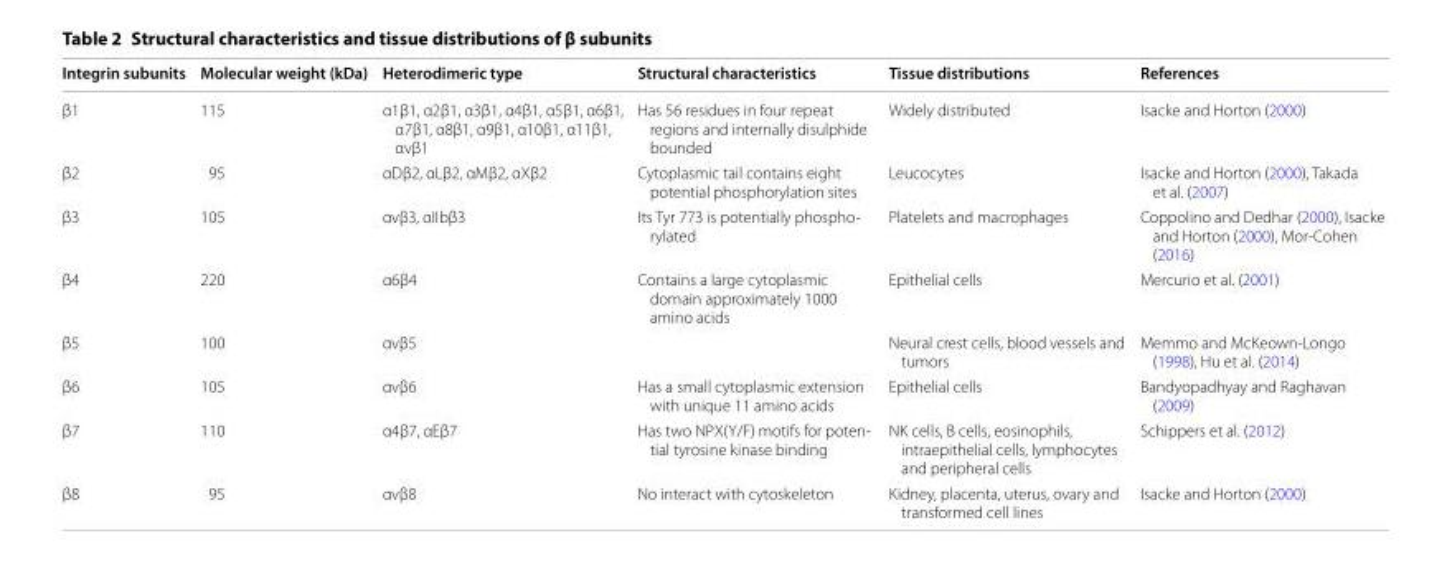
<table><thead><tr><td>Integrin subunits</td><td>Molecular weight (kDa)</td><td>Heterodimeric type</td><td>Structural characteristics</td><td>Tissue distributions</td><td>References</td></tr></thead><tbody><tr><td>β1</td><td>115</td><td>α1β1, α2β1, α3β1, α4β1, α5β1, α6β1, α7β1, α8β1, α9β1, α10β1, α11β1, αvβ1</td><td>Has 56 residues in four repeat regions and internally disulphide bounded</td><td>Widely distributed</td><td>Isacke and Horton (2000)</td></tr><tr><td>β2</td><td>95</td><td>αDβ2, αLβ2, αMβ2, αXβ2</td><td>Cytoplasmic tail contains eight potential phosphorylation sites</td><td>Leucocytes</td><td>Isacke and Horton (2000), Takada et al. (2007)</td></tr><tr><td>β3</td><td>105</td><td>αvβ3, αIIbβ3</td><td>Its Tyr 773 is potentially phospho- rylated</td><td>Platelets and macrophages</td><td>Coppolino and Dedhar (2000), Isacke and Horton (2000), Mor-Cohen (2016)</td></tr><tr><td>β4</td><td>220</td><td>α6β4</td><td>Contains a large cytoplasmic domain approximately 1000 amino acids</td><td>Epithelial cells</td><td>Mercurio et al. (2001)</td></tr><tr><td>β5</td><td>100</td><td>αvβ5</td><td></td><td>Neural crest cells, blood vessels and tumors</td><td>Memmo and McKeown-Longo (1998), Hu et al. (2014)</td></tr><tr><td>β6</td><td>105</td><td>αvβ6</td><td>Has a small cytoplasmic extension with unique 11 amino acids</td><td>Epithelial cells</td><td>Bandyopadhyay and Raghavan (2009)</td></tr><tr><td>β7</td><td>110</td><td>α4β7, αEβ7</td><td>Has two NPX(Y/F) motifs for poten- tial tyrosine kinase binding</td><td>NK cells, B cells, eosinophils, intraepithelial cells, lymphocytes and peripheral cells</td><td>Schippers et al. (2012)</td></tr><tr><td>β8</td><td>95</td><td>αvβ8</td><td>No interact with cytoskeleton</td><td>Kidney, placenta, uterus, ovary and transformed cell lines</td><td>Isacke and Horton (2000)</td></tr></tbody></table>